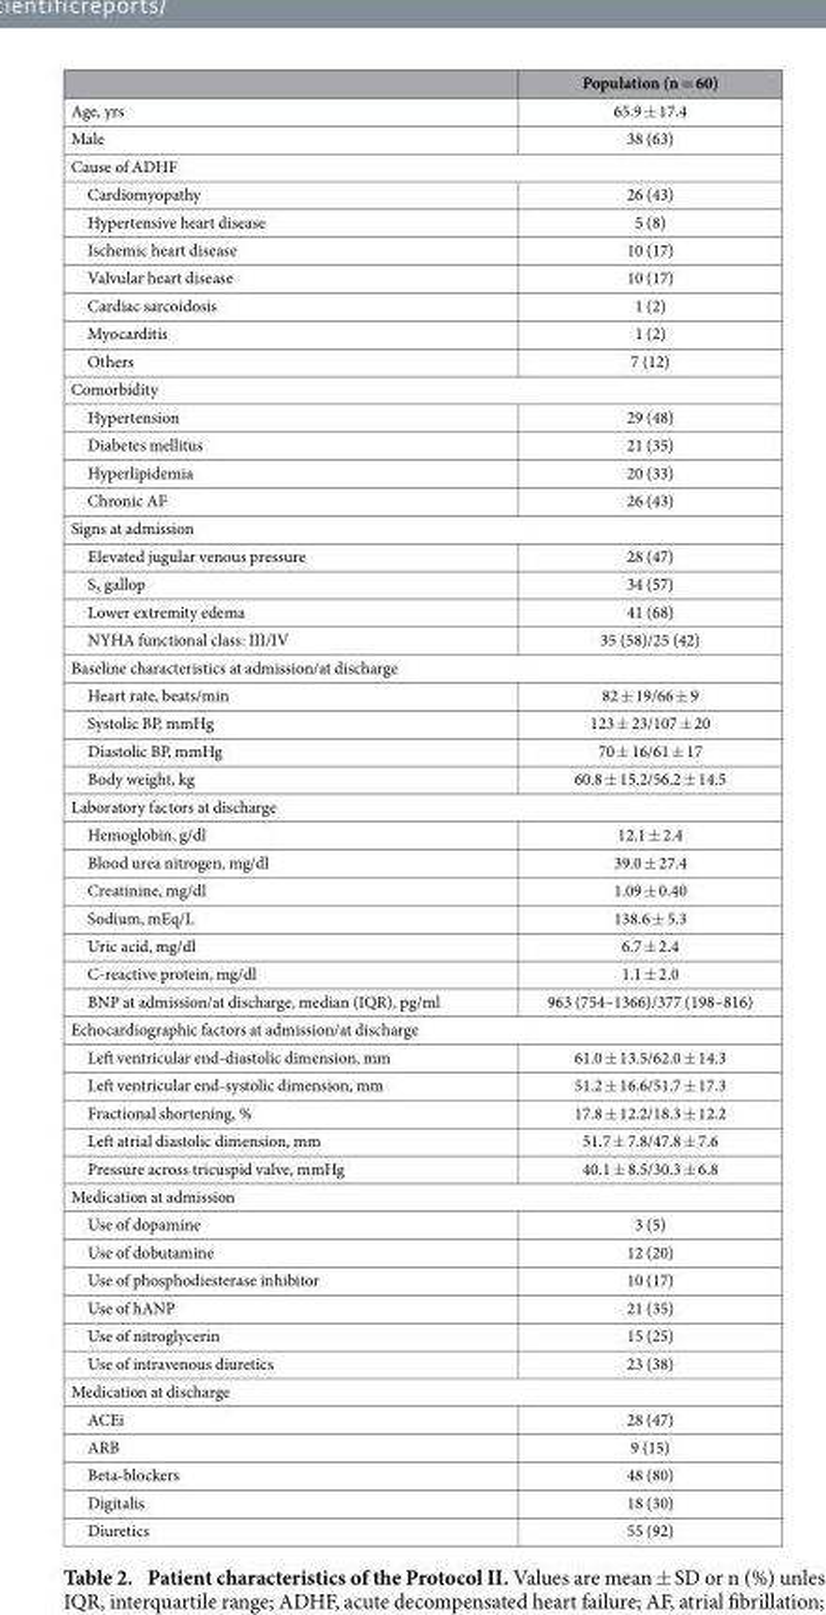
<table><thead><tr><td></td><td>Population (n = 60)</td></tr></thead><tbody><tr><td>Age, yrs</td><td>65.9 ± 17.4</td></tr><tr><td>Male</td><td>38 (63)</td></tr><tr><td colspan="2">Cause of ADHF</td></tr><tr><td>Cardiomyopathy</td><td>26 (43)</td></tr><tr><td>Hypertensive heart disease</td><td>5 (8)</td></tr><tr><td>Ischemic heart disease</td><td>10 (17)</td></tr><tr><td>Valvular heart disease</td><td>10 (17)</td></tr><tr><td>Cardiac sarcoidosis</td><td>1 (2)</td></tr><tr><td>Myocarditis</td><td>1 (2)</td></tr><tr><td>Others</td><td>7 (12)</td></tr><tr><td colspan="2">Comorbidity</td></tr><tr><td>Hypertension</td><td>29 (48)</td></tr><tr><td>Diabetes mellitus</td><td>21 (35)</td></tr><tr><td>Hyperlipidemia</td><td>20 (33)</td></tr><tr><td>Chronic AF</td><td>26 (43)</td></tr><tr><td colspan="2">Signs at admission</td></tr><tr><td>Elevated jugular venous pressure</td><td>28 (47)</td></tr><tr><td>S<sub>3</sub> gallop</td><td>34 (57)</td></tr><tr><td>Lower extremity edema</td><td>41 (68)</td></tr><tr><td>NYHA functional class: III/IV</td><td>35 (58)/25 (42)</td></tr><tr><td colspan="2">Baseline characteristics at admission/at discharge</td></tr><tr><td>Heart rate, beats/min</td><td>82 ± 19/66 ± 9</td></tr><tr><td>Systolic BP, mmHg</td><td>123 ± 23/107 ± 20</td></tr><tr><td>Diastolic BP, mmHg</td><td>70 ± 16/61 ± 17</td></tr><tr><td>Body weight, kg</td><td>60.8 ± 15.2/56.2 ± 14.5</td></tr><tr><td colspan="2">Laboratory factors at discharge</td></tr><tr><td>Hemoglobin, g/dl</td><td>12.1 ± 2.4</td></tr><tr><td>Blood urea nitrogen, mg/dl</td><td>39.0 ± 27.4</td></tr><tr><td>Creatinine, mg/dl</td><td>1.09 ± 0.40</td></tr><tr><td>Sodium, mEq/L</td><td>138.6 ± 5.3</td></tr><tr><td>Uric acid, mg/dl</td><td>6.7 ± 2.4</td></tr><tr><td>C-reactive protein, mg/dl</td><td>1.1 ± 2.0</td></tr><tr><td>BNP at admission/at discharge, median (IQR), pg/ml</td><td>963 (754–1366)/377 (198–816)</td></tr><tr><td colspan="2">Echocardiographic factors at admission/at discharge</td></tr><tr><td>Left ventricular end-diastolic dimension, mm</td><td>61.0 ± 13.5/62.0 ± 14.3</td></tr><tr><td>Left ventricular end-systolic dimension, mm</td><td>51.2 ± 16.6/51.7 ± 17.3</td></tr><tr><td>Fractional shortening, %</td><td>17.8 ± 12.2/18.3 ± 12.2</td></tr><tr><td>Left atrial diastolic dimension, mm</td><td>51.7 ± 7.8/47.8 ± 7.6</td></tr><tr><td>Pressure across tricuspid valve, mmHg</td><td>40.1 ± 8.5/30.3 ± 6.8</td></tr><tr><td colspan="2">Medication at admission</td></tr><tr><td>Use of dopamine</td><td>3 (5)</td></tr><tr><td>Use of dobutamine</td><td>12 (20)</td></tr><tr><td>Use of phosphodiesterase inhibitor</td><td>10 (17)</td></tr><tr><td>Use of hANP</td><td>21 (35)</td></tr><tr><td>Use of nitroglycerin</td><td>15 (25)</td></tr><tr><td>Use of intravenous diuretics</td><td>23 (38)</td></tr><tr><td colspan="2">Medication at discharge</td></tr><tr><td>ACEi</td><td>28 (47)</td></tr><tr><td>ARB</td><td>9 (15)</td></tr><tr><td>Beta-blockers</td><td>48 (80)</td></tr><tr><td>Digitalis</td><td>18 (30)</td></tr><tr><td>Diuretics</td><td>55 (92)</td></tr></tbody></table>